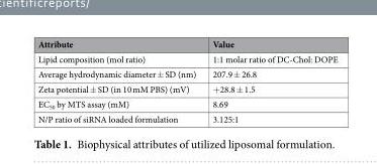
<table><thead><tr><td>Attribute</td><td>Value</td></tr></thead><tbody><tr><td>Lipid composition (mol ratio)</td><td>1:1 molar ratio of DC-Chol: DOPE</td></tr><tr><td>Average hydrodynamic diameter ± SD (nm)</td><td>207.9 ± 26.8</td></tr><tr><td>Zeta potential ± SD (in 10 mM PBS) (mV)</td><td>+28.8 ± 1.5</td></tr><tr><td>EC<sub>50</sub> by MTS assay (mM)</td><td>8.69</td></tr><tr><td>N/P ratio of siRNA loaded formulation</td><td>3.125:1</td></tr></tbody></table>